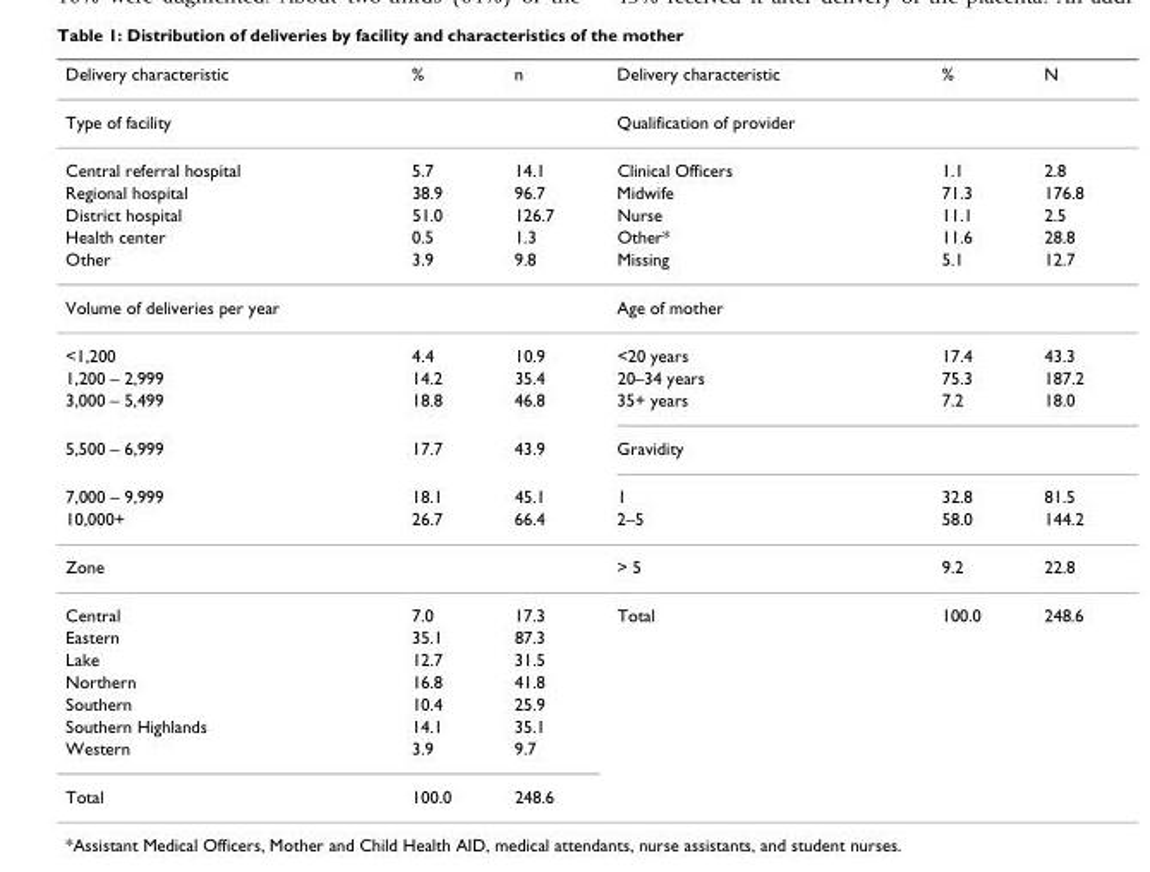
<table><thead><tr><td>Delivery characteristic</td><td>%</td><td>n</td><td>Delivery characteristic</td><td>%</td><td>N</td></tr></thead><tbody><tr><td colspan="3">Type of facility</td><td colspan="3">Qualification of provider</td></tr><tr><td>Central referral hospital</td><td>5.7</td><td>14.1</td><td>Clinical Officers</td><td>1.1</td><td>2.8</td></tr><tr><td>Regional hospital</td><td>38.9</td><td>96.7</td><td>Midwife</td><td>71.3</td><td>176.8</td></tr><tr><td>District hospital</td><td>51.0</td><td>126.7</td><td>Nurse</td><td>11.1</td><td>2.5</td></tr><tr><td>Health center</td><td>0.5</td><td>1.3</td><td>Other*</td><td>11.6</td><td>28.8</td></tr><tr><td>Other</td><td>3.9</td><td>9.8</td><td>Missing</td><td>5.1</td><td>12.7</td></tr><tr><td colspan="3">Volume of deliveries per year</td><td colspan="3">Age of mother</td></tr><tr><td>&lt;1,200</td><td>4.4</td><td>10.9</td><td>&lt;20 years</td><td>17.4</td><td>43.3</td></tr><tr><td>1,200 – 2,999</td><td>14.2</td><td>35.4</td><td>20–34 years</td><td>75.3</td><td>187.2</td></tr><tr><td>3,000 – 5,499</td><td>18.8</td><td>46.8</td><td>35+ years</td><td>7.2</td><td>18.0</td></tr><tr><td>5,500 – 6,999</td><td>17.7</td><td>43.9</td><td colspan="3">Gravidity</td></tr><tr><td>7,000 – 9,999</td><td>18.1</td><td>45.1</td><td>1</td><td>32.8</td><td>81.5</td></tr><tr><td>10,000+</td><td>26.7</td><td>66.4</td><td>2–5</td><td>58.0</td><td>144.2</td></tr><tr><td colspan="3">Zone</td><td>&gt; 5</td><td>9.2</td><td>22.8</td></tr><tr><td>Central</td><td>7.0</td><td>17.3</td><td>Total</td><td>100.0</td><td>248.6</td></tr><tr><td>Eastern</td><td>35.1</td><td>87.3</td><td></td><td></td><td></td></tr><tr><td>Lake</td><td>12.7</td><td>31.5</td><td></td><td></td><td></td></tr><tr><td>Northern</td><td>16.8</td><td>41.8</td><td></td><td></td><td></td></tr><tr><td>Southern</td><td>10.4</td><td>25.9</td><td></td><td></td><td></td></tr><tr><td>Southern Highlands</td><td>14.1</td><td>35.1</td><td></td><td></td><td></td></tr><tr><td>Western</td><td>3.9</td><td>9.7</td><td></td><td></td><td></td></tr><tr><td>Total</td><td>100.0</td><td>248.6</td><td></td><td></td><td></td></tr></tbody></table>